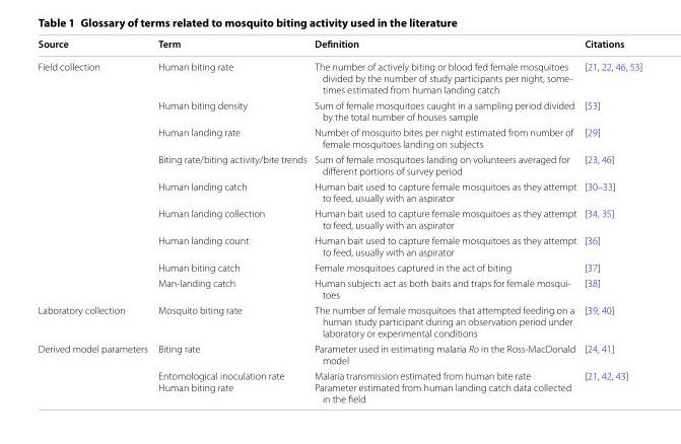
<table><thead><tr><td>Source</td><td>Term</td><td>Definition</td><td>Citations</td></tr></thead><tbody><tr><td rowspan="9">Field collection</td><td>Human biting rate</td><td>The number of actively biting or blood fed female mosquitoes divided by the number of study participants per night, some‑ times estimated from human landing catch</td><td>[21, 22, 46, 53]</td></tr><tr><td>Human biting density</td><td>Sum of female mosquitoes caught in a sampling period divided by the total number of houses sample</td><td>[53]</td></tr><tr><td>Human landing rate</td><td>Number of mosquito bites per night estimated from number of female mosquitoes landing on subjects</td><td>[29]</td></tr><tr><td>Biting rate/biting activity/bite trends</td><td>Sum of female mosquitoes landing on volunteers averaged for different portions of survey period</td><td>[23, 46]</td></tr><tr><td>Human landing catch</td><td>Human bait used to capture female mosquitoes as they attempt to feed, usually with an aspirator</td><td>[30–33]</td></tr><tr><td>Human landing collection</td><td>Human bait used to capture female mosquitoes as they attempt to feed, usually with an aspirator</td><td>[34, 35]</td></tr><tr><td>Human landing count</td><td>Human bait used to capture female mosquitoes as they attempt to feed, usually with an aspirator</td><td>[36]</td></tr><tr><td>Human biting catch</td><td>Female mosquitoes captured in the act of biting</td><td>[37]</td></tr><tr><td>Man‑landing catch</td><td>Human subjects act as both baits and traps for female mosqui‑ toes</td><td>[38]</td></tr><tr><td>Laboratory collection</td><td>Mosquito biting rate</td><td>The number of female mosquitoes that attempted feeding on a human study participant during an observation period under laboratory or experimental conditions</td><td>[39, 40]</td></tr><tr><td rowspan="2">Derived model parameters</td><td>Biting rate</td><td>Parameter used in estimating malaria Ro in the Ross‑MacDonald model</td><td>[24, 41]</td></tr><tr><td>Entomological inoculation rate Human biting rate</td><td>Malaria transmission estimated from human bite rate Parameter estimated from human landing catch data collected in the field</td><td>[21, 42, 43]</td></tr></tbody></table>